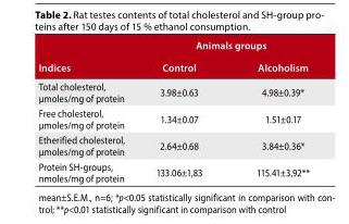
<table><thead><tr><td rowspan="2">Indices</td><td colspan="2">Animals groups</td></tr><tr><td>Control</td><td>Alcoholism</td></tr></thead><tbody><tr><td>Total cholesterol, μmoles/mg of protein</td><td>3.98±0.63</td><td>4.98±0.39*</td></tr><tr><td>Free cholesterol, μmoles/mg of protein</td><td>1.34±0.07</td><td>1.51±0.17</td></tr><tr><td>Etherified cholesterol, μmoles/mg of protein</td><td>2.64±0.68</td><td>3.84±0.36*</td></tr><tr><td>Protein SH-groups, nmoles/mg of protein</td><td>133.06±1,83</td><td>115.41±3,92**</td></tr></tbody></table>